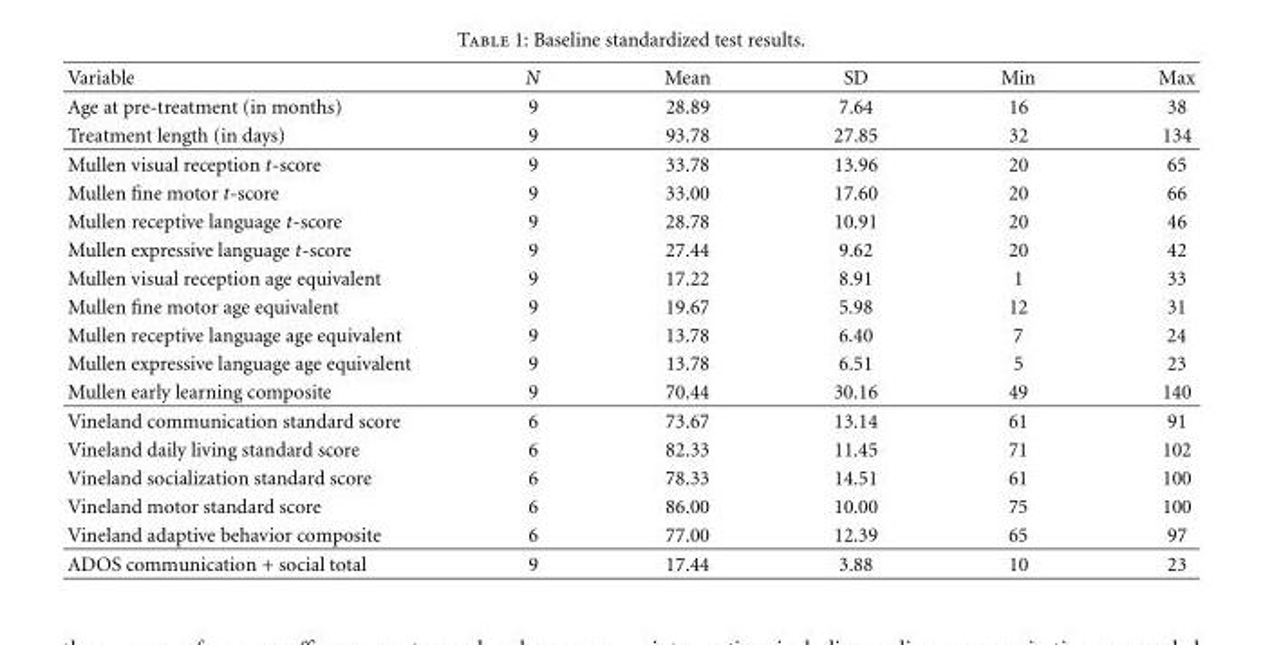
<table><thead><tr><td>Variable</td><td>N</td><td>Mean</td><td>SD</td><td>Min</td><td>Max</td></tr></thead><tbody><tr><td>Age at pre-treatment (in months)</td><td>9</td><td>28.89</td><td>7.64</td><td>16</td><td>38</td></tr><tr><td>Treatment length (in days)</td><td>9</td><td>93.78</td><td>27.85</td><td>32</td><td>134</td></tr><tr><td>Mullen visual reception t-score</td><td>9</td><td>33.78</td><td>13.96</td><td>20</td><td>65</td></tr><tr><td>Mullen fine motor t-score</td><td>9</td><td>33.00</td><td>17.60</td><td>20</td><td>66</td></tr><tr><td>Mullen receptive language t-score</td><td>9</td><td>28.78</td><td>10.91</td><td>20</td><td>46</td></tr><tr><td>Mullen expressive language t-score</td><td>9</td><td>27.44</td><td>9.62</td><td>20</td><td>42</td></tr><tr><td>Mullen visual reception age equivalent</td><td>9</td><td>17.22</td><td>8.91</td><td>1</td><td>33</td></tr><tr><td>Mullen fine motor age equivalent</td><td>9</td><td>19.67</td><td>5.98</td><td>12</td><td>31</td></tr><tr><td>Mullen receptive language age equivalent</td><td>9</td><td>13.78</td><td>6.40</td><td>7</td><td>24</td></tr><tr><td>Mullen expressive language age equivalent</td><td>9</td><td>13.78</td><td>6.51</td><td>5</td><td>23</td></tr><tr><td>Mullen early learning composite</td><td>9</td><td>70.44</td><td>30.16</td><td>49</td><td>140</td></tr><tr><td>Vineland communication standard score</td><td>6</td><td>73.67</td><td>13.14</td><td>61</td><td>91</td></tr><tr><td>Vineland daily living standard score</td><td>6</td><td>82.33</td><td>11.45</td><td>71</td><td>102</td></tr><tr><td>Vineland socialization standard score</td><td>6</td><td>78.33</td><td>14.51</td><td>61</td><td>100</td></tr><tr><td>Vineland motor standard score</td><td>6</td><td>86.00</td><td>10.00</td><td>75</td><td>100</td></tr><tr><td>Vineland adaptive behavior composite</td><td>6</td><td>77.00</td><td>12.39</td><td>65</td><td>97</td></tr><tr><td>ADOS communication + social total</td><td>9</td><td>17.44</td><td>3.88</td><td>10</td><td>23</td></tr></tbody></table>